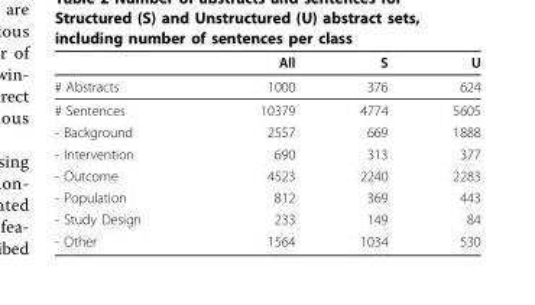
<table><thead><tr><td></td><td>All</td><td>S</td><td>U</td></tr></thead><tbody><tr><td># Abstracts</td><td>1000</td><td>376</td><td>624</td></tr><tr><td># Sentences</td><td>10379</td><td>4774</td><td>5605</td></tr><tr><td>- Background</td><td>2557</td><td>669</td><td>1888</td></tr><tr><td>- Intervention</td><td>690</td><td>313</td><td>377</td></tr><tr><td>- Outcome</td><td>4523</td><td>2240</td><td>2283</td></tr><tr><td>- Population</td><td>812</td><td>369</td><td>443</td></tr><tr><td>- Study Design</td><td>233</td><td>149</td><td>84</td></tr><tr><td>- Other</td><td>1564</td><td>1034</td><td>530</td></tr></tbody></table>